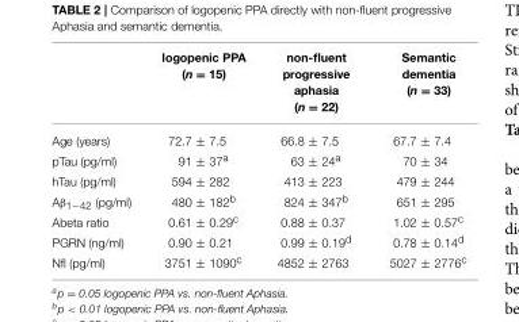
<table><thead><tr><td></td><td>logopenic PPA (n = 15)</td><td>non-fluent progressive aphasia (n = 22)</td><td>Semantic dementia (n = 33)</td></tr></thead><tbody><tr><td>Age (years)</td><td>72.7 ± 7.5</td><td>66.8 ± 7.5</td><td>67.7 ± 7.4</td></tr><tr><td>pTau (pg/ml)</td><td>91 ± 37<sup>a</sup></td><td>63 ± 24<sup>a</sup></td><td>70 ± 34</td></tr><tr><td>hTau (pg/ml)</td><td>594 ± 282</td><td>413 ± 223</td><td>479 ± 244</td></tr><tr><td>Aβ<sub>1−42</sub> (pg/ml)</td><td>480 ± 182<sup>b</sup></td><td>824 ± 347<sup>b</sup></td><td>651 ± 295</td></tr><tr><td>Abeta ratio</td><td>0.61 ± 0.29<sup>c</sup></td><td>0.88 ± 0.37</td><td>1.02 ± 0.57<sup>c</sup></td></tr><tr><td>PGRN (ng/ml)</td><td>0.90 ± 0.21</td><td>0.99 ± 0.19<sup>d</sup></td><td>0.78 ± 0.14<sup>d</sup></td></tr><tr><td>Nfl (pg/ml)</td><td>3751 ± 1090<sup>c</sup></td><td>4852 ± 2763</td><td>5027 ± 2776<sup>c</sup></td></tr></tbody></table>